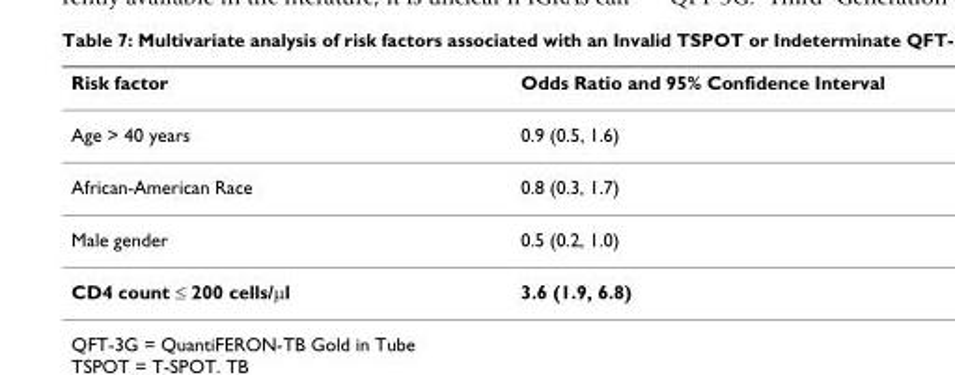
<table><thead><tr><td>Risk factor</td><td>Odds Ratio and 95% Confidence Interval</td></tr></thead><tbody><tr><td>Age &gt; 40 years</td><td>0.9 (0.5, 1.6)</td></tr><tr><td>African-American Race</td><td>0.8 (0.3, 1.7)</td></tr><tr><td>Male gender</td><td>0.5 (0.2, 1.0)</td></tr><tr><td>CD4 count ≤ 200 cells/μl</td><td>3.6 (1.9, 6.8)</td></tr></tbody></table>